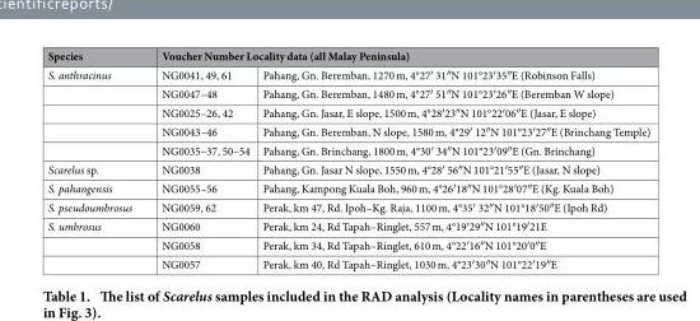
<table><thead><tr><td rowspan="2">Species S. anthracinus</td><td colspan="2">Voucher Number Locality data (all Malay Peninsula)</td></tr><tr><td>NG0041, 49, 61</td><td>Pahang, Gn. Beremban, 1270 m, 4°27′ 31″ N 101°23′ 35″ E (Robinson Falls)</td></tr></thead><tbody><tr><td></td><td>NG0047–48</td><td>Pahang, Gn. Beremban, 1480 m, 4°27′ 51″ N 101°23′ 26″ E (Beremban W slope)</td></tr><tr><td></td><td>NG0025–26, 42</td><td>Pahang, Gn. Jasar, E slope, 1500 m, 4°28′ 23″ N 101°22′ 06″ E (Jasar, E slope)</td></tr><tr><td></td><td>NG0043–46</td><td>Pahang, Gn. Beremban, N slope, 1580 m, 4°29′ 12″ N 101°23′ 27″ E (Brinchang Temple)</td></tr><tr><td></td><td>NG0035–37, 50–54</td><td>Pahang, Gn. Brinchang, 1800 m, 4°30′ 34″ N 101°23′ 09″ E (Gn. Brinchang)</td></tr><tr><td>Scarelus sp.</td><td>NG0038</td><td>Pahang, Gn. Jasar N slope, 1550 m, 4°28′ 56″ N 101°21′ 55″ E (Jasar, N slope)</td></tr><tr><td>S. pahangensis</td><td>NG0055–56</td><td>Pahang, Kampong Kuala Boh, 960 m, 4°26′ 18″ N 101°28′ 07″ E (Kg. Kuala Boh)</td></tr><tr><td>S. pseudoumbrosus</td><td>NG0059, 62</td><td>Perak, km 47, Rd. Ipoh–Kg. Raja, 1100 m, 4°35′ 32″ N 101°18′ 50″ E (Ipoh Rd)</td></tr><tr><td rowspan="3">S. umbrosus</td><td>NG0060</td><td>Perak, km 24, Rd Tapah–Ringlet, 557 m, 4°19′ 29″ N 101°19′ 21E</td></tr><tr><td>NG0058</td><td>Perak, km 34, Rd Tapah–Ringlet, 610 m, 4°22′ 16″ N 101°20′ 0″ E</td></tr><tr><td>NG0057</td><td>Perak, km 40, Rd Tapah–Ringlet, 1030 m, 4°23′ 30″ N 101°22′ 19″ E</td></tr></tbody></table>